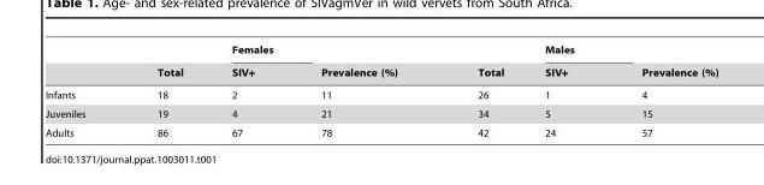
<table><thead><tr><td rowspan="2"></td><td rowspan="2">Total</td><td rowspan="2">Females SIV+</td><td rowspan="2">Prevalence (%)</td><td rowspan="2">Total</td><td rowspan="2">Males SIV+</td><td rowspan="2">Prevalence (%)</td></tr><tr></tr></thead><tbody><tr><td>Infants</td><td>18</td><td>2</td><td>11</td><td>26</td><td>1</td><td>4</td></tr><tr><td>Juveniles</td><td>19</td><td>4</td><td>21</td><td>34</td><td>5</td><td>15</td></tr><tr><td>Adults</td><td>86</td><td>67</td><td>78</td><td>42</td><td>24</td><td>57</td></tr></tbody></table>